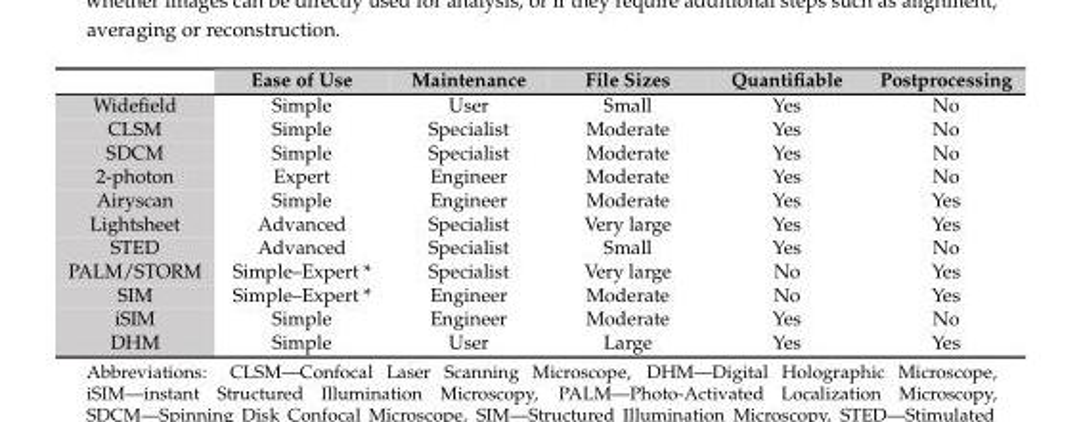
<table><thead><tr><td></td><td>Ease of Use</td><td>Maintenance</td><td>File Sizes</td><td>Quantifiable</td><td>Postprocessing</td></tr></thead><tbody><tr><td>Widefield</td><td>Simple</td><td>User</td><td>Small</td><td>Yes</td><td>No</td></tr><tr><td>CLSM</td><td>Simple</td><td>Specialist</td><td>Moderate</td><td>Yes</td><td>No</td></tr><tr><td>SDCM</td><td>Simple</td><td>Specialist</td><td>Moderate</td><td>Yes</td><td>No</td></tr><tr><td>2-photon</td><td>Expert</td><td>Engineer</td><td>Moderate</td><td>Yes</td><td>No</td></tr><tr><td>Airyscan</td><td>Simple</td><td>Engineer</td><td>Moderate</td><td>Yes</td><td>Yes</td></tr><tr><td>Lightsheet</td><td>Advanced</td><td>Specialist</td><td>Very large</td><td>Yes</td><td>Yes</td></tr><tr><td>STED</td><td>Advanced</td><td>Specialist</td><td>Small</td><td>Yes</td><td>No</td></tr><tr><td>PALM/STORM</td><td>Simple–Expert *</td><td>Specialist</td><td>Very large</td><td>No</td><td>Yes</td></tr><tr><td>SIM</td><td>Simple–Expert *</td><td>Engineer</td><td>Moderate</td><td>No</td><td>Yes</td></tr><tr><td>iSIM</td><td>Simple</td><td>Engineer</td><td>Moderate</td><td>Yes</td><td>No</td></tr><tr><td>DHM</td><td>Simple</td><td>User</td><td>Large</td><td>Yes</td><td>Yes</td></tr></tbody></table>